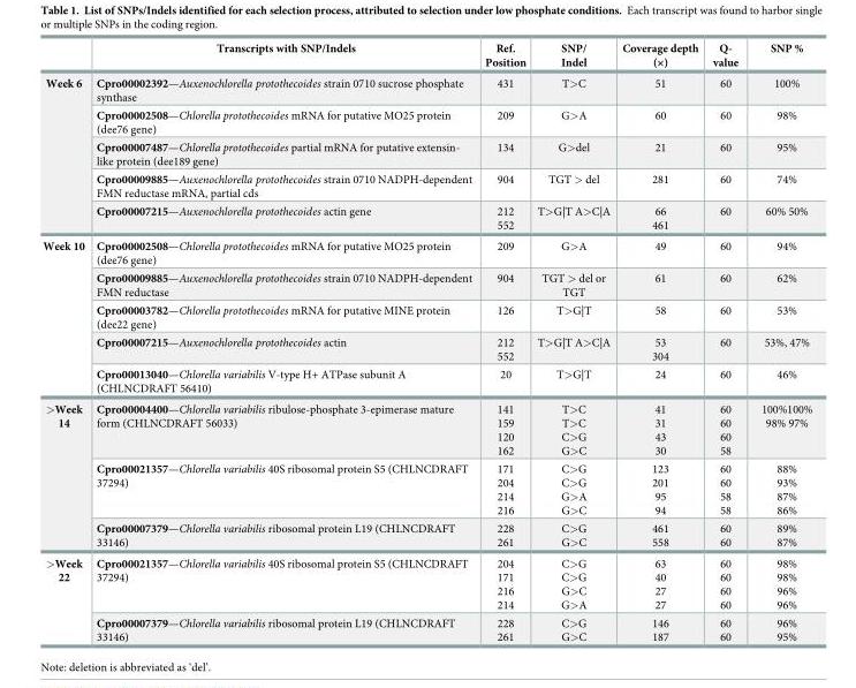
<table><thead><tr><td></td><td>Transcripts with SNP/Indels</td><td>Ref. Position</td><td>SNP/ Indel</td><td>Coverage depth (×)</td><td>Q- value</td><td>SNP %</td></tr></thead><tbody><tr><td rowspan="5">Week 6</td><td>Cpro00002392—Auxenochlorella protothecoides strain 0710 sucrose phosphate synthase</td><td>431</td><td>T&gt;C</td><td>51</td><td>60</td><td>100%</td></tr><tr><td>Cpro00002508—Chlorella protothecoides mRNA for putative MO25 protein (dee76 gene)</td><td>209</td><td>G&gt;A</td><td>60</td><td>60</td><td>98%</td></tr><tr><td>Cpro00007487—Chlorella protothecoides partial mRNA for putative extensin- like protein (dee189 gene)</td><td>134</td><td>G&gt;del</td><td>21</td><td>60</td><td>95%</td></tr><tr><td>Cpro00009885—Auxenochlorella protothecoides strain 0710 NADPH-dependent FMN reductase mRNA, partial cds</td><td>904</td><td>TGT &gt; del</td><td>281</td><td>60</td><td>74%</td></tr><tr><td>Cpro00007215—Auxenochlorella protothecoides actin gene</td><td>212 552</td><td>T&gt;G|T A&gt;C|A</td><td>66 461</td><td>60</td><td>60% 50%</td></tr><tr><td rowspan="5">Week 10</td><td>Cpro00002508—Chlorella protothecoides mRNA for putative MO25 protein (dee76 gene)</td><td>209</td><td>G&gt;A</td><td>49</td><td>60</td><td>94%</td></tr><tr><td>Cpro00009885—Auxenochlorella protothecoides strain 0710 NADPH-dependent FMN reductase</td><td>904</td><td>TGT &gt; del or TGT</td><td>61</td><td>60</td><td>62%</td></tr><tr><td>Cpro00003782—Chlorella protothecoides mRNA for putative MINE protein (dee22 gene)</td><td>126</td><td>T&gt;G|T</td><td>58</td><td>60</td><td>53%</td></tr><tr><td>Cpro00007215—Auxenochlorella protothecoides actin</td><td>212 552</td><td>T&gt;G|T A&gt;C|A</td><td>53 304</td><td>60</td><td>53%, 47%</td></tr><tr><td>Cpro00013040—Chlorella variabilis V-type H+ ATPase subunit A (CHLNCDRAFT 56410)</td><td>20</td><td>T&gt;G|T</td><td>24</td><td>60</td><td>46%</td></tr><tr><td rowspan="3">&gt;Week 14</td><td>Cpro00004400—Chlorella variabilis ribulose-phosphate 3-epimerase mature form (CHLNCDRAFT 56033)</td><td>141 159 120 162</td><td>T&gt;C T&gt;C C&gt;G G&gt;C</td><td>41 31 43 30</td><td>60 60 60 58</td><td>100%100% 98% 97%</td></tr><tr><td>Cpro00021357—Chlorella variabilis 40S ribosomal protein S5 (CHLNCDRAFT 37294)</td><td>171 204 214 216</td><td>C&gt;G C&gt;G G&gt;A G&gt;C</td><td>123 201 95 94</td><td>60 60 58 58</td><td>88% 93% 87% 86%</td></tr><tr><td>Cpro00007379—Chlorella variabilis ribosomal protein L19 (CHLNCDRAFT 33146)</td><td>228 261</td><td>C&gt;G G&gt;C</td><td>461 558</td><td>60 60</td><td>89% 87%</td></tr><tr><td rowspan="2">&gt;Week 22</td><td>Cpro00021357—Chlorella variabilis 40S ribosomal protein S5 (CHLNCDRAFT 37294)</td><td>204 171 216 214</td><td>C&gt;G C&gt;G G&gt;C G&gt;A</td><td>63 40 27 27</td><td>60 60 60 60</td><td>98% 98% 96% 96%</td></tr><tr><td>Cpro00007379—Chlorella variabilis ribosomal protein L19 (CHLNCDRAFT 33146)</td><td>228 261</td><td>C&gt;G G&gt;C</td><td>146 187</td><td>60 60</td><td>96% 95%</td></tr></tbody></table>